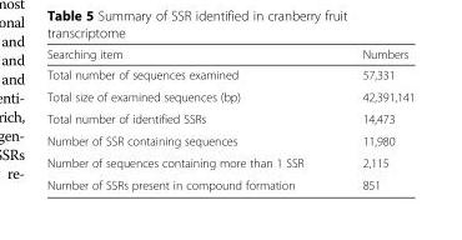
<table><thead><tr><td>Searching item</td><td>Numbers</td></tr></thead><tbody><tr><td>Total number of sequences examined</td><td>57,331</td></tr><tr><td>Total size of examined sequences (bp)</td><td>42,391,141</td></tr><tr><td>Total number of identified SSRs</td><td>14,473</td></tr><tr><td>Number of SSR containing sequences</td><td>11,980</td></tr><tr><td>Number of sequences containing more than 1 SSR</td><td>2,115</td></tr><tr><td>Number of SSRs present in compound formation</td><td>851</td></tr></tbody></table>